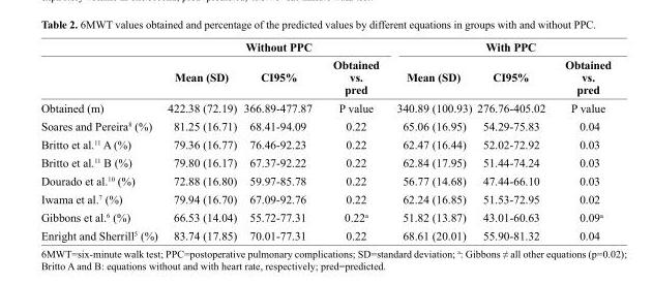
<table><thead><tr><td rowspan="2"></td><td rowspan="2">Mean (SD)</td><td rowspan="2">Without PPC CI95%</td><td rowspan="2">Obtained vs. pred</td><td rowspan="2">Mean (SD)</td><td rowspan="2">With PPC CI95%</td><td rowspan="2">Obtained vs. pred</td></tr><tr></tr></thead><tbody><tr><td>Obtained (m)</td><td>422.38 (72.19)</td><td>366.89-477.87</td><td>P value</td><td>340.89 (100.93)</td><td>276.76-405.02</td><td>P value</td></tr><tr><td>Soares and Pereira<sup>8</sup> (%)</td><td>81.25 (16.71)</td><td>68.41-94.09</td><td>0.22</td><td>65.06 (16.95)</td><td>54.29-75.83</td><td>0.04</td></tr><tr><td>Britto et al.<sup>11</sup> A (%)</td><td>79.36 (16.77)</td><td>76.46-92.23</td><td>0.22</td><td>62.47 (16.44)</td><td>52.02-72.92</td><td>0.03</td></tr><tr><td>Britto et al.<sup>11</sup> B (%)</td><td>79.80 (16.17)</td><td>67.37-92.22</td><td>0.22</td><td>62.84 (17.95)</td><td>51.44-74.24</td><td>0.03</td></tr><tr><td>Dourado et al.<sup>10</sup> (%)</td><td>72.88 (16.80)</td><td>59.97-85.78</td><td>0.22</td><td>56.77 (14.68)</td><td>47.44-66.10</td><td>0.03</td></tr><tr><td>Iwama et al.<sup>7</sup> (%)</td><td>79.94 (16.70)</td><td>67.09-92.76</td><td>0.22</td><td>62.24 (16.85)</td><td>51.53-72.95</td><td>0.02</td></tr><tr><td>Gibbons et al.<sup>6</sup> (%)</td><td>66.53 (14.04)</td><td>55.72-77.31</td><td>0.22<sup>a</sup></td><td>51.82 (13.87)</td><td>43.01-60.63</td><td>0.09a</td></tr><tr><td>Enright and Sherrill<sup>5</sup> (%)</td><td>83.74 (17.85)</td><td>70.01-77.31</td><td>0.22</td><td>68.61 (20.01)</td><td>55.90-81.32</td><td>0.04</td></tr></tbody></table>